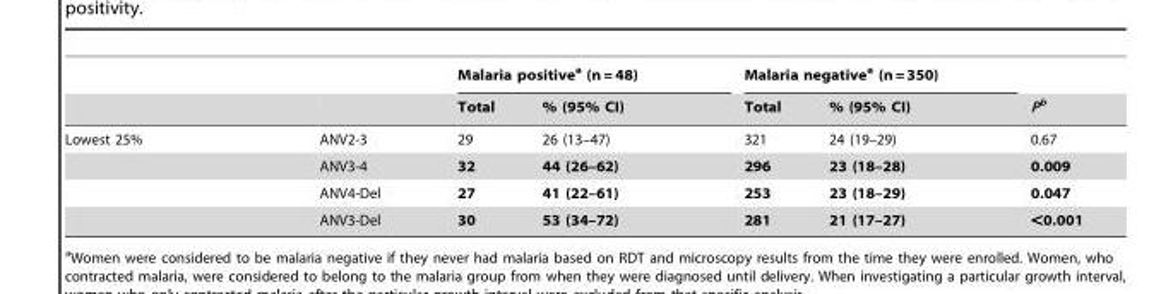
<table><thead><tr><td rowspan="2"></td><td rowspan="2"></td><td colspan="2">Malaria positive<sup>a</sup> (n = 48)</td><td colspan="2">Malaria negative<sup>a</sup> (n = 350)</td><td rowspan="2">Pb</td></tr><tr><td>Total</td><td>% (95% CI)</td><td>Total</td><td>% (95% CI)</td></tr></thead><tbody><tr><td rowspan="4">Lowest 25%</td><td>ANV2-3</td><td>29</td><td>26 (13–47)</td><td>321</td><td>24 (19–29)</td><td>0.67</td></tr><tr><td>ANV3-4</td><td>32</td><td>44 (26–62)</td><td>296</td><td>23 (18–28)</td><td>0.009</td></tr><tr><td>ANV4-Del</td><td>27</td><td>41 (22–61)</td><td>253</td><td>23 (18–29)</td><td>0.047</td></tr><tr><td>ANV3-Del</td><td>30</td><td>53 (34–72)</td><td>281</td><td>21 (17–27)</td><td>&lt;0.001</td></tr></tbody></table>